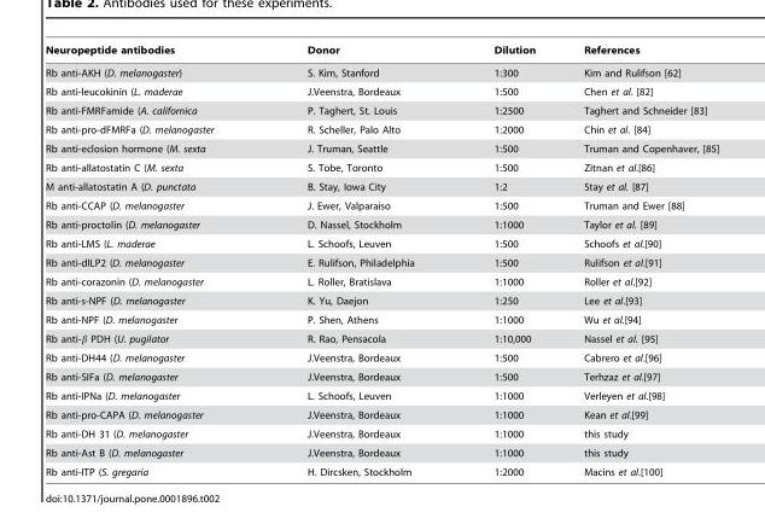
<table><thead><tr><td>Neuropeptide antibodies</td><td>Donor</td><td>Dilution</td><td>References</td></tr></thead><tbody><tr><td>Rb anti-AKH (D. melanogaster)</td><td>S. Kim, Stanford</td><td>1:300</td><td>Kim and Rulifson [62]</td></tr><tr><td>Rb anti-leucokinin (L. maderae</td><td>J.Veenstra, Bordeaux</td><td>1:500</td><td>Chen et al. [82]</td></tr><tr><td>Rb anti-FMRFamide (A. californica</td><td>P. Taghert, St. Louis</td><td>1:2500</td><td>Taghert and Schneider [83]</td></tr><tr><td>Rb anti-pro-dFMRFa (D. melanogaster</td><td>R. Scheller, Palo Alto</td><td>1:2000</td><td>Chin et al. [84]</td></tr><tr><td>Rb anti-eclosion hormone (M. sexta</td><td>J. Truman, Seattle</td><td>1:500</td><td>Truman and Copenhaver, [85]</td></tr><tr><td>Rb anti-allatostatin C (M. sexta</td><td>S. Tobe, Toronto</td><td>1:500</td><td>Zitnan et al.[86]</td></tr><tr><td>M anti-allatostatin A (D. punctata</td><td>B. Stay, Iowa City</td><td>1:2</td><td>Stay et al. [87]</td></tr><tr><td>Rb anti-CCAP (D. melanogaster</td><td>J. Ewer, Valparaiso</td><td>1:500</td><td>Truman and Ewer [88]</td></tr><tr><td>Rb anti-proctolin (D. melanogaster</td><td>D. Nassel, Stockholm</td><td>1:1000</td><td>Taylor et al. [89]</td></tr><tr><td>Rb anti-LMS (L. maderae</td><td>L. Schoofs, Leuven</td><td>1:500</td><td>Schoofs et al.[90]</td></tr><tr><td>Rb anti-dILP2 (D. melanogaster</td><td>E. Rulifson, Philadelphia</td><td>1:500</td><td>Rulifson et al.[91]</td></tr><tr><td>Rb anti-corazonin (D. melanogaster</td><td>L. Roller, Bratislava</td><td>1:1000</td><td>Roller et al.[92]</td></tr><tr><td>Rb anti-s-NPF (D. melanogaster</td><td>K. Yu, Daejon</td><td>1:250</td><td>Lee et al.[93]</td></tr><tr><td>Rb anti-NPF (D. melanogaster</td><td>P. Shen, Athens</td><td>1:1000</td><td>Wu et al.[94]</td></tr><tr><td>Rb anti-β PDH (U. pugilator</td><td>R. Rao, Pensacola</td><td>1:10,000</td><td>Nassel et al. [95]</td></tr><tr><td>Rb anti-DH44 (D. melanogaster</td><td>J.Veenstra, Bordeaux</td><td>1:500</td><td>Cabrero et al.[96]</td></tr><tr><td>Rb anti-SIFa (D. melanogaster</td><td>J.Veenstra, Bordeaux</td><td>1:500</td><td>Terhzaz et al.[97]</td></tr><tr><td>Rb anti-IPNa (D. melanogaster</td><td>L. Schoofs, Leuven</td><td>1:1000</td><td>Verleyen et al.[98]</td></tr><tr><td>Rb anti-pro-CAPA (D. melanogaster</td><td>J.Veenstra, Bordeaux</td><td>1:1000</td><td>Kean et al.[99]</td></tr><tr><td>Rb anti-DH 31 (D. melanogaster</td><td>J.Veenstra, Bordeaux</td><td>1:1000</td><td>this study</td></tr><tr><td>Rb anti-Ast B (D. melanogaster</td><td>J.Veenstra, Bordeaux</td><td>1:1000</td><td>this study</td></tr><tr><td>Rb anti-ITP (S. gregaria</td><td>H. Dircsken, Stockholm</td><td>1:2000</td><td>Macins et al.[100]</td></tr></tbody></table>